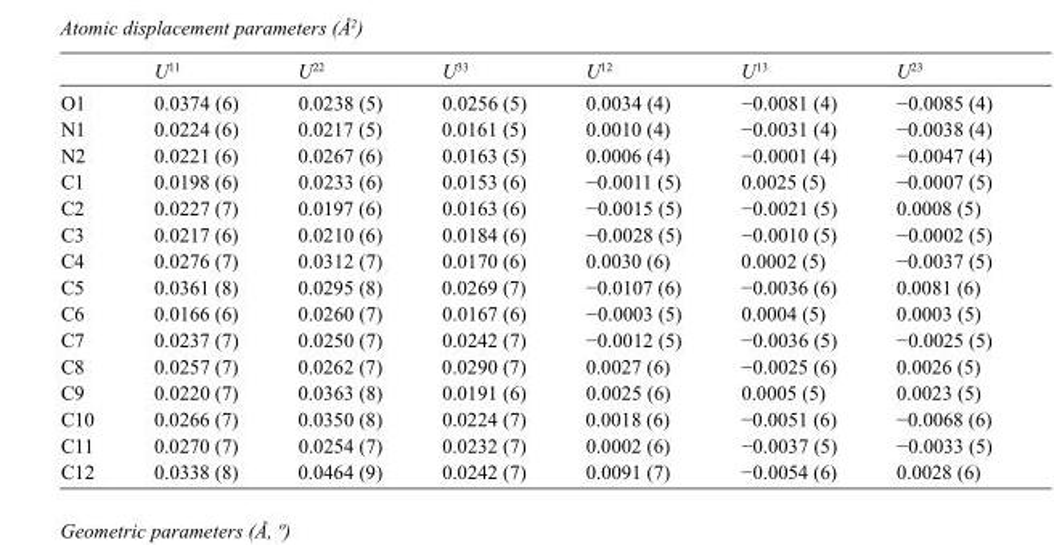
<table><thead><tr><td></td><td>U<sup>11</sup></td><td>U<sup>22</sup></td><td>U<sup>33</sup></td><td>U<sup>12</sup></td><td>U<sup>13</sup></td><td>U<sup>23</sup></td></tr></thead><tbody><tr><td>O1</td><td>0.0374 (6)</td><td>0.0238 (5)</td><td>0.0256 (5)</td><td>0.0034 (4)</td><td>−0.0081 (4)</td><td>−0.0085 (4)</td></tr><tr><td>N1</td><td>0.0224 (6)</td><td>0.0217 (5)</td><td>0.0161 (5)</td><td>0.0010 (4)</td><td>−0.0031 (4)</td><td>−0.0038 (4)</td></tr><tr><td>N2</td><td>0.0221 (6)</td><td>0.0267 (6)</td><td>0.0163 (5)</td><td>0.0006 (4)</td><td>−0.0001 (4)</td><td>−0.0047 (4)</td></tr><tr><td>C1</td><td>0.0198 (6)</td><td>0.0233 (6)</td><td>0.0153 (6)</td><td>−0.0011 (5)</td><td>0.0025 (5)</td><td>−0.0007 (5)</td></tr><tr><td>C2</td><td>0.0227 (7)</td><td>0.0197 (6)</td><td>0.0163 (6)</td><td>−0.0015 (5)</td><td>−0.0021 (5)</td><td>0.0008 (5)</td></tr><tr><td>C3</td><td>0.0217 (6)</td><td>0.0210 (6)</td><td>0.0184 (6)</td><td>−0.0028 (5)</td><td>−0.0010 (5)</td><td>−0.0002 (5)</td></tr><tr><td>C4</td><td>0.0276 (7)</td><td>0.0312 (7)</td><td>0.0170 (6)</td><td>0.0030 (6)</td><td>0.0002 (5)</td><td>−0.0037 (5)</td></tr><tr><td>C5</td><td>0.0361 (8)</td><td>0.0295 (8)</td><td>0.0269 (7)</td><td>−0.0107 (6)</td><td>−0.0036 (6)</td><td>0.0081 (6)</td></tr><tr><td>C6</td><td>0.0166 (6)</td><td>0.0260 (7)</td><td>0.0167 (6)</td><td>−0.0003 (5)</td><td>0.0004 (5)</td><td>0.0003 (5)</td></tr><tr><td>C7</td><td>0.0237 (7)</td><td>0.0250 (7)</td><td>0.0242 (7)</td><td>−0.0012 (5)</td><td>−0.0036 (5)</td><td>−0.0025 (5)</td></tr><tr><td>C8</td><td>0.0257 (7)</td><td>0.0262 (7)</td><td>0.0290 (7)</td><td>0.0027 (6)</td><td>−0.0025 (6)</td><td>0.0026 (5)</td></tr><tr><td>C9</td><td>0.0220 (7)</td><td>0.0363 (8)</td><td>0.0191 (6)</td><td>0.0025 (6)</td><td>0.0005 (5)</td><td>0.0023 (5)</td></tr><tr><td>C10</td><td>0.0266 (7)</td><td>0.0350 (8)</td><td>0.0224 (7)</td><td>0.0018 (6)</td><td>−0.0051 (6)</td><td>−0.0068 (6)</td></tr><tr><td>C11</td><td>0.0270 (7)</td><td>0.0254 (7)</td><td>0.0232 (7)</td><td>0.0002 (6)</td><td>−0.0037 (5)</td><td>−0.0033 (5)</td></tr><tr><td>C12</td><td>0.0338 (8)</td><td>0.0464 (9)</td><td>0.0242 (7)</td><td>0.0091 (7)</td><td>−0.0054 (6)</td><td>0.0028 (6)</td></tr></tbody></table>